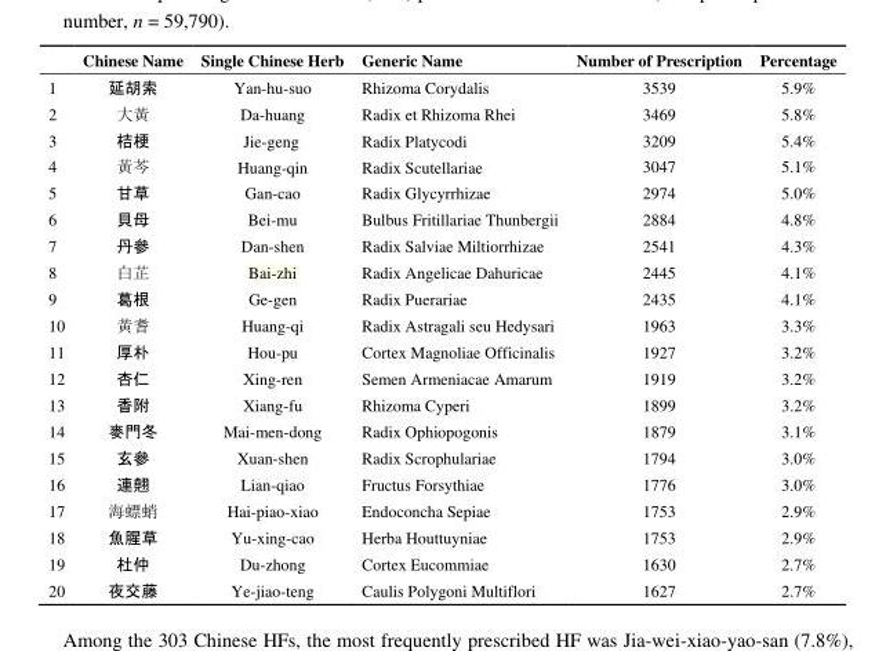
<table><thead><tr><td></td><td>Chinese Name</td><td>Single Chinese Herb</td><td>Generic Name</td><td>Number of Prescription</td><td>Percentage</td></tr></thead><tbody><tr><td>1</td><td>延胡索</td><td>Yan-hu-suo</td><td>Rhizoma Corydalis</td><td>3539</td><td>5.9%</td></tr><tr><td>2</td><td>大黃</td><td>Da-huang</td><td>Radix et Rhizoma Rhei</td><td>3469</td><td>5.8%</td></tr><tr><td>3</td><td>桔梗</td><td>Jie-geng</td><td>Radix Platycodi</td><td>3209</td><td>5.4%</td></tr><tr><td>4</td><td>黃芩</td><td>Huang-qin</td><td>Radix Scutellariae</td><td>3047</td><td>5.1%</td></tr><tr><td>5</td><td>甘草</td><td>Gan-cao</td><td>Radix Glycyrrhizae</td><td>2974</td><td>5.0%</td></tr><tr><td>6</td><td>貝母</td><td>Bei-mu</td><td>Bulbus Fritillariae Thunbergii</td><td>2884</td><td>4.8%</td></tr><tr><td>7</td><td>丹參</td><td>Dan-shen</td><td>Radix Salviae Miltiorrhizae</td><td>2541</td><td>4.3%</td></tr><tr><td>8</td><td>白芷</td><td>Bai-zhi</td><td>Radix Angelicae Dahuricae</td><td>2445</td><td>4.1%</td></tr><tr><td>9</td><td>葛根</td><td>Ge-gen</td><td>Radix Puerariae</td><td>2435</td><td>4.1%</td></tr><tr><td>10</td><td>黃耆</td><td>Huang-qi</td><td>Radix Astragali seu Hedysari</td><td>1963</td><td>3.3%</td></tr><tr><td>11</td><td>厚朴</td><td>Hou-pu</td><td>Cortex Magnoliae Officinalis</td><td>1927</td><td>3.2%</td></tr><tr><td>12</td><td>杏仁</td><td>Xing-ren</td><td>Semen Armeniacae Amarum</td><td>1919</td><td>3.2%</td></tr><tr><td>13</td><td>香附</td><td>Xiang-fu</td><td>Rhizoma Cyperi</td><td>1899</td><td>3.2%</td></tr><tr><td>14</td><td>麥門冬</td><td>Mai-men-dong</td><td>Radix Ophiopogonis</td><td>1879</td><td>3.1%</td></tr><tr><td>15</td><td>玄參</td><td>Xuan-shen</td><td>Radix Scrophulariae</td><td>1794</td><td>3.0%</td></tr><tr><td>16</td><td>連翹</td><td>Lian-qiao</td><td>Fructus Forsythiae</td><td>1776</td><td>3.0%</td></tr><tr><td>17</td><td>海螵蛸</td><td>Hai-piao-xiao</td><td>Endoconcha Sepiae</td><td>1753</td><td>2.9%</td></tr><tr><td>18</td><td>魚腥草</td><td>Yu-xing-cao</td><td>Herba Houttuyniae</td><td>1753</td><td>2.9%</td></tr><tr><td>19</td><td>杜仲</td><td>Du-zhong</td><td>Cortex Eucommiae</td><td>1630</td><td>2.7%</td></tr><tr><td>20</td><td>夜交藤</td><td>Ye-jiao-teng</td><td>Caulis Polygoni Multiflori</td><td>1627</td><td>2.7%</td></tr></tbody></table>